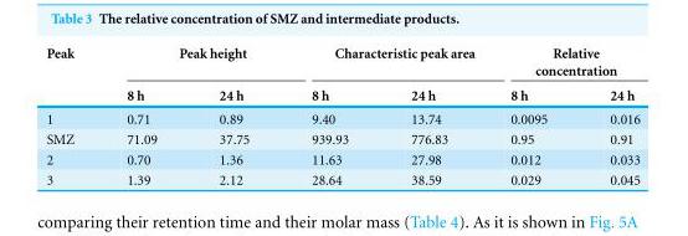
<table><thead><tr><td rowspan="2">Peak</td><td colspan="2">Peak height</td><td colspan="2">Characteristic peak area</td><td colspan="2">Relative concentration</td></tr><tr><td>8 h</td><td>24 h</td><td>8 h</td><td>24 h</td><td>8 h</td><td>24 h</td></tr></thead><tbody><tr><td>1</td><td>0.71</td><td>0.89</td><td>9.40</td><td>13.74</td><td>0.0095</td><td>0.016</td></tr><tr><td>SMZ</td><td>71.09</td><td>37.75</td><td>939.93</td><td>776.83</td><td>0.95</td><td>0.91</td></tr><tr><td>2</td><td>0.70</td><td>1.36</td><td>11.63</td><td>27.98</td><td>0.012</td><td>0.033</td></tr><tr><td>3</td><td>1.39</td><td>2.12</td><td>28.64</td><td>38.59</td><td>0.029</td><td>0.045</td></tr></tbody></table>